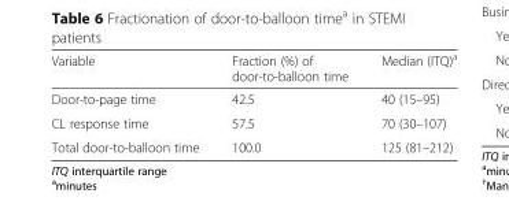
<table><thead><tr><td>Variable</td><td>Fraction (%) of door-to-balloon time</td><td>Median (ITQ)<sup>a</sup></td></tr></thead><tbody><tr><td>Door-to-page time</td><td>42.5</td><td>40 (15–95)</td></tr><tr><td>CL response time</td><td>57.5</td><td>70 (30–107)</td></tr><tr><td>Total door-to-balloon time</td><td>100.0</td><td>125 (81–212)</td></tr></tbody></table>